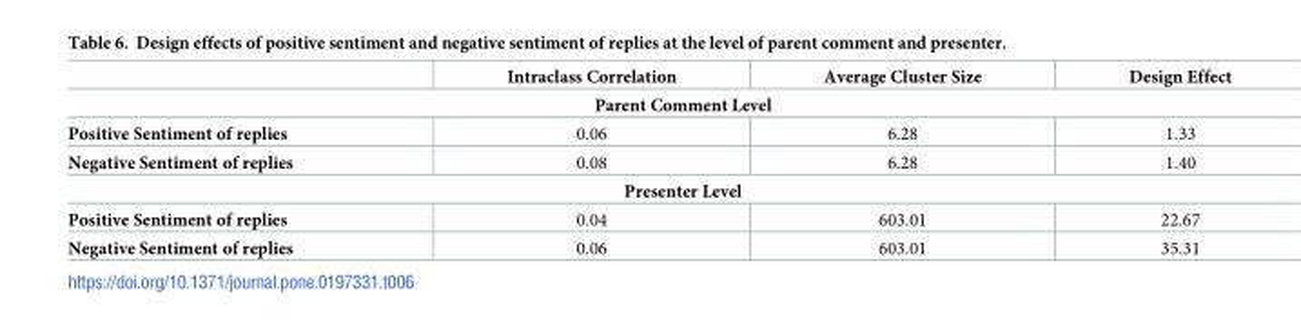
<table><thead><tr><td></td><td>Intraclass Correlation</td><td>Average Cluster Size</td><td>Design Effect</td></tr></thead><tbody><tr><td colspan="4">Parent Comment Level</td></tr><tr><td>Positive Sentiment of replies</td><td>0.06</td><td>6.28</td><td>1.33</td></tr><tr><td>Negative Sentiment of replies</td><td>0.08</td><td>6.28</td><td>1.40</td></tr><tr><td colspan="4">Presenter Level</td></tr><tr><td>Positive Sentiment of replies</td><td>0.04</td><td>603.01</td><td>22.67</td></tr><tr><td>Negative Sentiment of replies</td><td>0.06</td><td>603.01</td><td>35.31</td></tr></tbody></table>